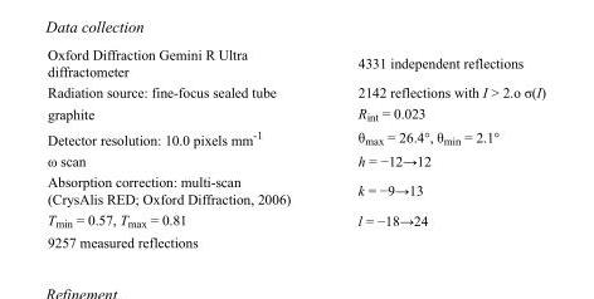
<table><tbody><tr><td>Oxford Diffraction Gemini R Ultra diffractometer</td><td>4331 independent reflections</td></tr><tr><td>Radiation source: fine-focus sealed tube</td><td>2142 reflections with I &gt; 2.o σ(I)</td></tr><tr><td>graphite</td><td>R<sub>int</sub> = 0.023</td></tr><tr><td>Detector resolution: 10.0 pixels mm<sup>-1</sup></td><td>θ<sub>max</sub> = 26.4°, θ<sub>min</sub> = 2.1°</td></tr><tr><td>ω scan</td><td>h = −12→12</td></tr><tr><td>Absorption correction: multi-scan (CrysAlis RED; Oxford Diffraction, 2006)</td><td>k = −9→13</td></tr><tr><td>T<sub>min</sub> = 0.57, T<sub>max</sub> = 0.81</td><td>l = −18→24</td></tr><tr><td>9257 measured reflections</td><td></td></tr></tbody></table>